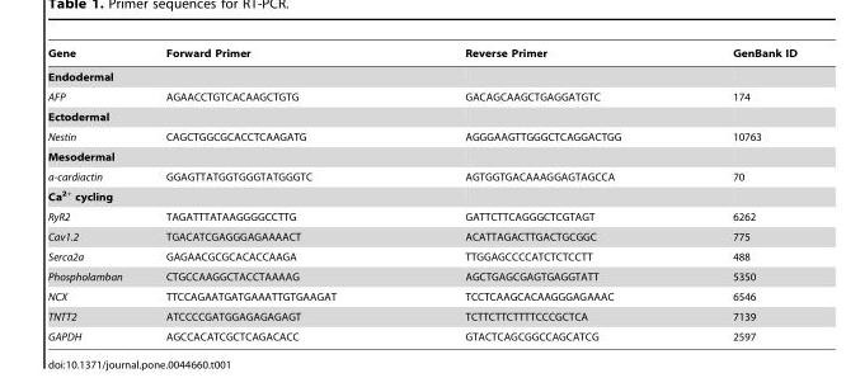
<table><thead><tr><td>Gene</td><td>Forward Primer</td><td>Reverse Primer</td><td>GenBank ID</td></tr></thead><tbody><tr><td colspan="4">Endodermal</td></tr><tr><td>AFP</td><td>AGAACCTGTCACAAGCTGTG</td><td>GACAGCAAGCTGAGGATGTC</td><td>174</td></tr><tr><td colspan="4">Ectodermal</td></tr><tr><td>Nestin</td><td>CAGCTGGCGCACCTCAAGATG</td><td>AGGGAAGTTGGGCTCAGGACTGG</td><td>10763</td></tr><tr><td colspan="4">Mesodermal</td></tr><tr><td>a-cardiactin</td><td>GGAGTTATGGTGGGTATGGGTC</td><td>AGTGGTGACAAAGGAGTAGCCA</td><td>70</td></tr><tr><td colspan="4">Ca<sup>2+</sup> cycling</td></tr><tr><td>RyR2</td><td>TAGATTTATAAGGGGCCTTG</td><td>GATTCTTCAGGGCTCGTAGT</td><td>6262</td></tr><tr><td>Cav1.2</td><td>TGACATCGAGGGAGAAAACT</td><td>ACATTAGACTTGACTGCGGC</td><td>775</td></tr><tr><td>Serca2a</td><td>GAGAACGCGCACACCAAGA</td><td>TTGGAGCCCCATCTCTCCTT</td><td>488</td></tr><tr><td>Phospholamban</td><td>CTGCCAAGGCTACCTAAAAG</td><td>AGCTGAGCGAGTGAGGTATT</td><td>5350</td></tr><tr><td>NCX</td><td>TTCCAGAATGATGAAATTGTGAAGAT</td><td>TCCTCAAGCACAAGGGAGAAAC</td><td>6546</td></tr><tr><td>TNTT2</td><td>ATCCCCGATGGAGAGAGAGT</td><td>TCTTCTTCTTTTCCCGCTCA</td><td>7139</td></tr><tr><td>GAPDH</td><td>AGCCACATCGCTCAGACACC</td><td>GTACTCAGCGGCCAGCATCG</td><td>2597</td></tr></tbody></table>